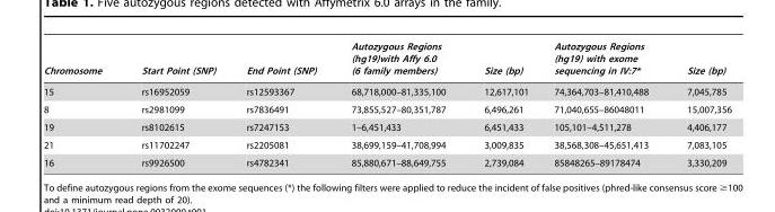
<table><thead><tr><td>Chromosome</td><td>Start Point (SNP)</td><td>End Point (SNP)</td><td>Autozygous Regions (hg19)with Affy 6.0 (6 family members)</td><td>Size (bp)</td><td>Autozygous Regions (hg19) with exome sequencing in IV:7*</td><td>Size (bp)</td></tr></thead><tbody><tr><td>15</td><td>rs16952059</td><td>rs12593367</td><td>68,718,000–81,335,100</td><td>12,617,101</td><td>74,364,703–81,410,488</td><td>7,045,785</td></tr><tr><td>8</td><td>rs2981099</td><td>rs7836491</td><td>73,855,527–80,351,787</td><td>6,496,261</td><td>71,040,655–86048011</td><td>15,007,356</td></tr><tr><td>19</td><td>rs8102615</td><td>rs7247153</td><td>1–6,451,433</td><td>6,451,433</td><td>105,101–4,511,278</td><td>4,406,177</td></tr><tr><td>21</td><td>rs11702247</td><td>rs2205081</td><td>38,699,159–41,708,994</td><td>3,009,835</td><td>38,568,308–45,651,413</td><td>7,083,105</td></tr><tr><td>16</td><td>rs9926500</td><td>rs4782341</td><td>85,880,671–88,649,755</td><td>2,739,084</td><td>85848265–89178474</td><td>3,330,209</td></tr></tbody></table>